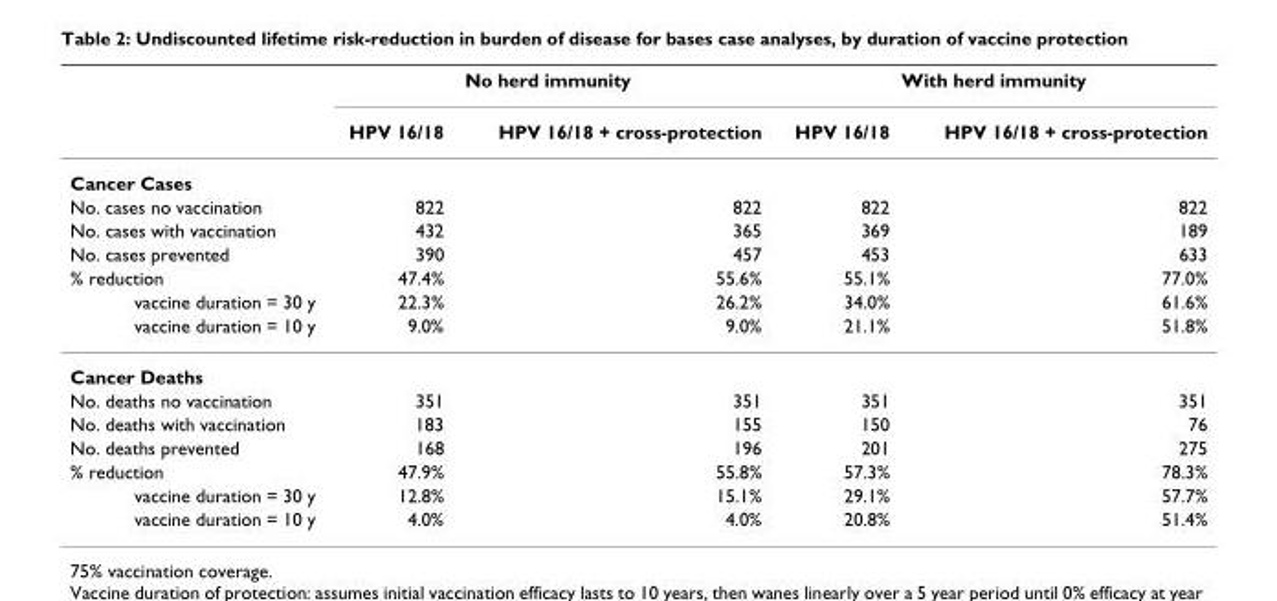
<table><thead><tr><td rowspan="2"></td><td colspan="2">No herd immunity</td><td colspan="2">With herd immunity</td></tr><tr><td>HPV 16/18</td><td>HPV 16/18 + cross-protection</td><td>HPV 16/18</td><td>HPV 16/18 + cross-protection</td></tr></thead><tbody><tr><td colspan="5">Cancer Cases</td></tr><tr><td>No. cases no vaccination</td><td>822</td><td>822</td><td>822</td><td>822</td></tr><tr><td>No. cases with vaccination</td><td>432</td><td>365</td><td>369</td><td>189</td></tr><tr><td>No. cases prevented</td><td>390</td><td>457</td><td>453</td><td>633</td></tr><tr><td>% reduction</td><td>47.4%</td><td>55.6%</td><td>55.1%</td><td>77.0%</td></tr><tr><td>vaccine duration = 30 y</td><td>22.3%</td><td>26.2%</td><td>34.0%</td><td>61.6%</td></tr><tr><td>vaccine duration = 10 y</td><td>9.0%</td><td>9.0%</td><td>21.1%</td><td>51.8%</td></tr><tr><td colspan="5">Cancer Deaths</td></tr><tr><td>No. deaths no vaccination</td><td>351</td><td>351</td><td>351</td><td>351</td></tr><tr><td>No. deaths with vaccination</td><td>183</td><td>155</td><td>150</td><td>76</td></tr><tr><td>No. deaths prevented</td><td>168</td><td>196</td><td>201</td><td>275</td></tr><tr><td>% reduction</td><td>47.9%</td><td>55.8%</td><td>57.3%</td><td>78.3%</td></tr><tr><td>vaccine duration = 30 y</td><td>12.8%</td><td>15.1%</td><td>29.1%</td><td>57.7%</td></tr><tr><td>vaccine duration = 10 y</td><td>4.0%</td><td>4.0%</td><td>20.8%</td><td>51.4%</td></tr></tbody></table>